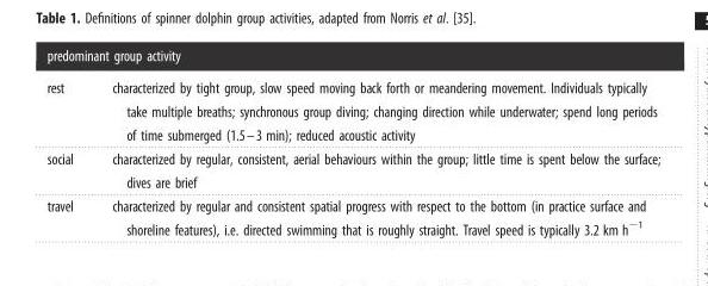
<table><thead><tr><td colspan="2">predominant group activity</td></tr><tr><td>rest</td><td>characterized by tight group, slow speed moving back forth or meandering movement. Individuals typically take multiple breaths; synchronous group diving; changing direction while underwater; spend long periods of time submerged (1.5–3 min); reduced acoustic activity</td></tr></thead><tbody><tr><td>social</td><td>characterized by regular, consistent, aerial behaviours within the group; little time is spent below the surface; dives are brief</td></tr><tr><td>travel</td><td>characterized by regular and consistent spatial progress with respect to the bottom (in practice surface and shoreline features), i.e. directed swimming that is roughly straight. Travel speed is typically 3.2 km h<sup>−1</sup></td></tr></tbody></table>